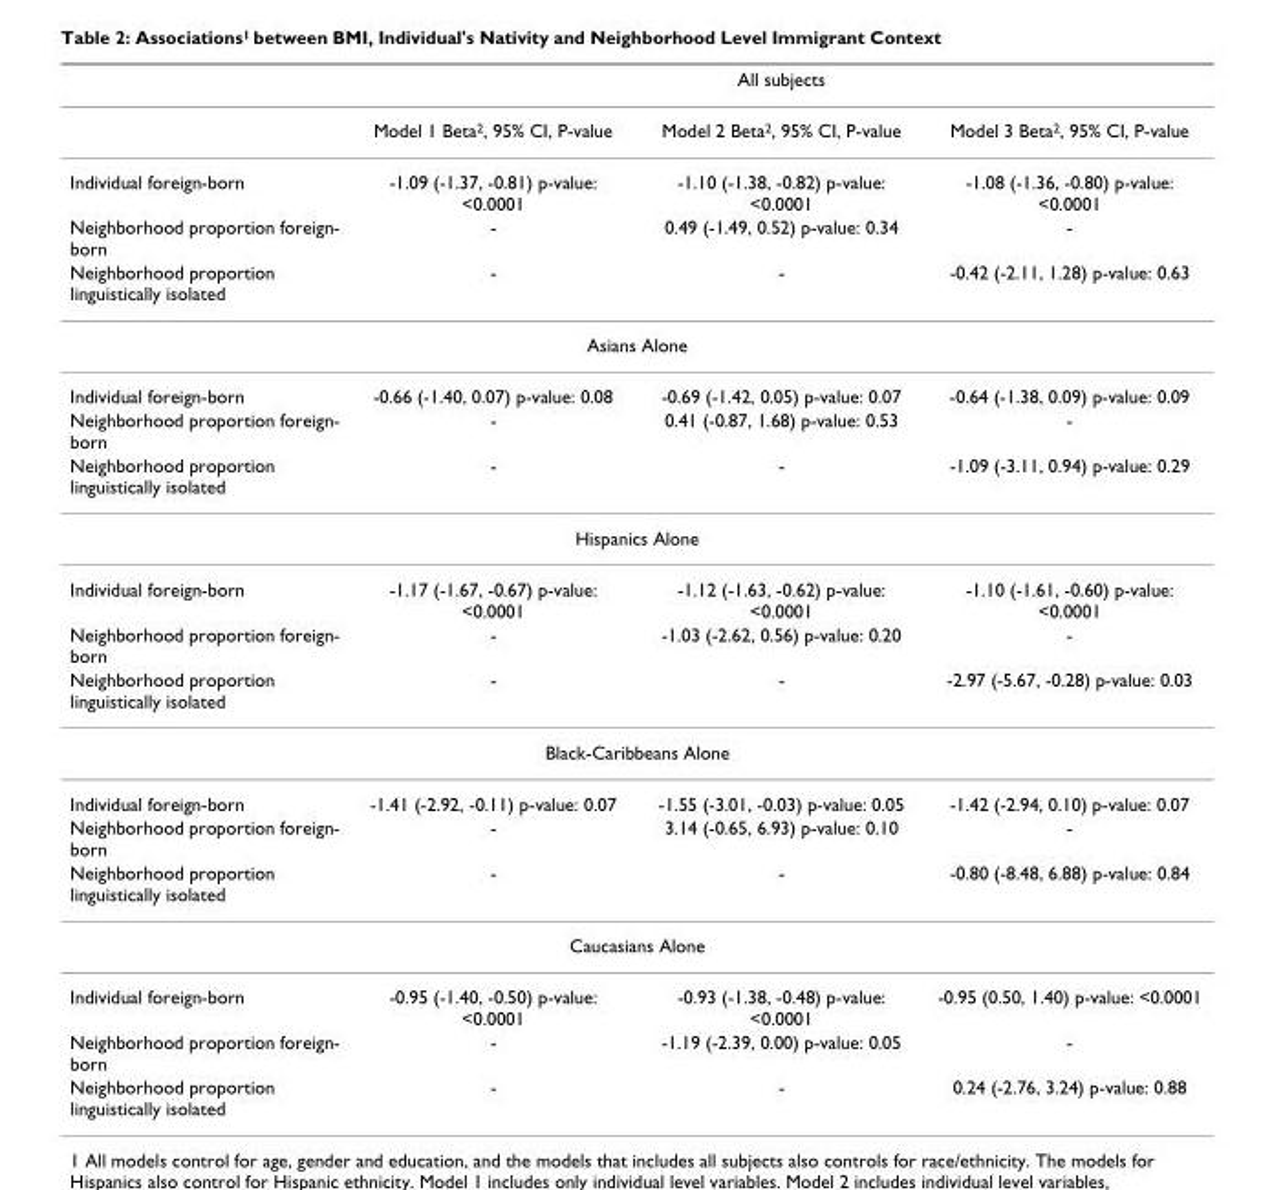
<table><thead><tr><td rowspan="2"></td><td colspan="3">All subjects</td></tr><tr><td>Model 1 Beta<sup>2</sup>, 95% CI, P-value</td><td>Model 2 Beta<sup>2</sup>, 95% CI, P-value</td><td>Model 3 Beta<sup>2</sup>, 95% CI, P-value</td></tr></thead><tbody><tr><td>Individual foreign-born</td><td>-1.09 (-1.37, -0.81) p-value: &lt;0.0001</td><td>-1.10 (-1.38, -0.82) p-value: &lt;0.0001</td><td>-1.08 (-1.36, -0.80) p-value: &lt;0.0001</td></tr><tr><td>Neighborhood proportion foreign- born</td><td>-</td><td>0.49 (-1.49, 0.52) p-value: 0.34</td><td>-</td></tr><tr><td>Neighborhood proportion linguistically isolated</td><td>-</td><td>-</td><td>-0.42 (-2.11, 1.28) p-value: 0.63</td></tr><tr><td colspan="4">Asians Alone</td></tr><tr><td>Individual foreign-born</td><td>-0.66 (-1.40, 0.07) p-value: 0.08</td><td>-0.69 (-1.42, 0.05) p-value: 0.07</td><td>-0.64 (-1.38, 0.09) p-value: 0.09</td></tr><tr><td>Neighborhood proportion foreign- born</td><td>-</td><td>0.41 (-0.87, 1.68) p-value: 0.53</td><td>-</td></tr><tr><td>Neighborhood proportion linguistically isolated</td><td>-</td><td>-</td><td>-1.09 (-3.11, 0.94) p-value: 0.29</td></tr><tr><td colspan="4">Hispanics Alone</td></tr><tr><td>Individual foreign-born</td><td>-1.17 (-1.67, -0.67) p-value: &lt;0.0001</td><td>-1.12 (-1.63, -0.62) p-value: &lt;0.0001</td><td>-1.10 (-1.61, -0.60) p-value: &lt;0.0001</td></tr><tr><td>Neighborhood proportion foreign- born</td><td>-</td><td>-1.03 (-2.62, 0.56) p-value: 0.20</td><td>-</td></tr><tr><td>Neighborhood proportion linguistically isolated</td><td>-</td><td>-</td><td>-2.97 (-5.67, -0.28) p-value: 0.03</td></tr><tr><td colspan="4">Black-Caribbeans Alone</td></tr><tr><td>Individual foreign-born</td><td>-1.41 (-2.92, -0.11) p-value: 0.07</td><td>-1.55 (-3.01, -0.03) p-value: 0.05</td><td>-1.42 (-2.94, 0.10) p-value: 0.07</td></tr><tr><td>Neighborhood proportion foreign- born</td><td>-</td><td>3.14 (-0.65, 6.93) p-value: 0.10</td><td>-</td></tr><tr><td>Neighborhood proportion linguistically isolated</td><td>-</td><td>-</td><td>-0.80 (-8.48, 6.88) p-value: 0.84</td></tr><tr><td colspan="4">Caucasians Alone</td></tr><tr><td>Individual foreign-born</td><td>-0.95 (-1.40, -0.50) p-value: &lt;0.0001</td><td>-0.93 (-1.38, -0.48) p-value: &lt;0.0001</td><td>-0.95 (0.50, 1.40) p-value: &lt;0.0001</td></tr><tr><td>Neighborhood proportion foreign- born</td><td>-</td><td>-1.19 (-2.39, 0.00) p-value: 0.05</td><td>-</td></tr><tr><td>Neighborhood proportion linguistically isolated</td><td>-</td><td>-</td><td>0.24 (-2.76, 3.24) p-value: 0.88</td></tr></tbody></table>